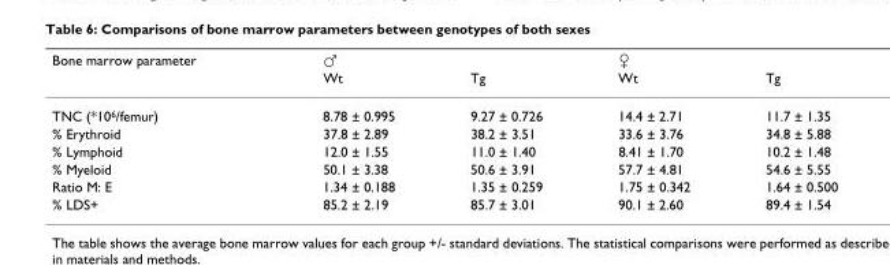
<table><thead><tr><td rowspan="2">Bone marrow parameter</td><td colspan="2">♂</td><td colspan="2">♀</td></tr><tr><td>Wt</td><td>Tg</td><td>Wt</td><td>Tg</td></tr></thead><tbody><tr><td>TNC (*10<sup>6</sup>/femur)</td><td>8.78 ± 0.995</td><td>9.27 ± 0.726</td><td>14.4 ± 2.71</td><td>11.7 ± 1.35</td></tr><tr><td>% Erythroid</td><td>37.8 ± 2.89</td><td>38.2 ± 3.51</td><td>33.6 ± 3.76</td><td>34.8 ± 5.88</td></tr><tr><td>% Lymphoid</td><td>12.0 ± 1.55</td><td>11.0 ± 1.40</td><td>8.41 ± 1.70</td><td>10.2 ± 1.48</td></tr><tr><td>% Myeloid</td><td>50.1 ± 3.38</td><td>50.6 ± 3.91</td><td>57.7 ± 4.81</td><td>54.6 ± 5.55</td></tr><tr><td>Ratio M: E</td><td>1.34 ± 0.188</td><td>1.35 ± 0.259</td><td>1.75 ± 0.342</td><td>1.64 ± 0.500</td></tr><tr><td>% LDS+</td><td>85.2 ± 2.19</td><td>85.7 ± 3.01</td><td>90.1 ± 2.60</td><td>89.4 ± 1.54</td></tr></tbody></table>